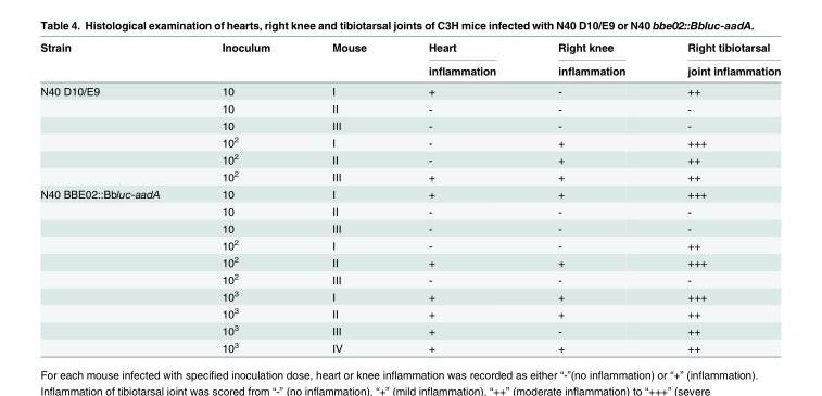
<table><thead><tr><td rowspan="2">Strain</td><td rowspan="2">Inoculum</td><td rowspan="2">Mouse</td><td rowspan="2">Heart inflammation</td><td rowspan="2">Right knee inflammation</td><td rowspan="2">Right tibiotarsal joint inflammation</td></tr><tr></tr></thead><tbody><tr><td rowspan="6">N40 D10/E9</td><td>10</td><td>I</td><td>+</td><td>-</td><td>++</td></tr><tr><td>10</td><td>II</td><td>-</td><td>-</td><td>-</td></tr><tr><td>10</td><td>III</td><td>-</td><td>-</td><td>-</td></tr><tr><td>10<sup>2</sup></td><td>I</td><td>-</td><td>+</td><td>+++</td></tr><tr><td>10<sup>2</sup></td><td>II</td><td>-</td><td>+</td><td>++</td></tr><tr><td>10<sup>2</sup></td><td>III</td><td>+</td><td>+</td><td>++</td></tr><tr><td rowspan="10">N40 BBE02::Bbluc-aadA</td><td>10</td><td>I</td><td>+</td><td>+</td><td>+++</td></tr><tr><td>10</td><td>II</td><td>-</td><td>-</td><td>-</td></tr><tr><td>10</td><td>III</td><td>-</td><td>-</td><td>-</td></tr><tr><td>10<sup>2</sup></td><td>I</td><td>-</td><td>-</td><td>++</td></tr><tr><td>10<sup>2</sup></td><td>II</td><td>+</td><td>+</td><td>+++</td></tr><tr><td>10<sup>2</sup></td><td>III</td><td>-</td><td>-</td><td>-</td></tr><tr><td>10<sup>3</sup></td><td>I</td><td>+</td><td>+</td><td>+++</td></tr><tr><td>10<sup>3</sup></td><td>II</td><td>+</td><td>+</td><td>++</td></tr><tr><td>10<sup>3</sup></td><td>III</td><td>+</td><td>-</td><td>++</td></tr><tr><td>10<sup>3</sup></td><td>IV</td><td>+</td><td>+</td><td>++</td></tr></tbody></table>